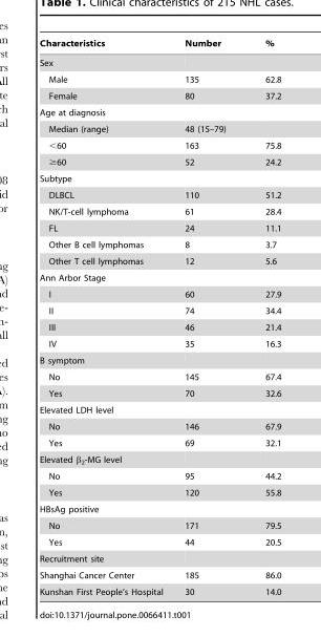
<table><thead><tr><td>Characteristics</td><td>Number</td><td>%</td></tr></thead><tbody><tr><td colspan="3">Sex</td></tr><tr><td>Male</td><td>135</td><td>62.8</td></tr><tr><td>Female</td><td>80</td><td>37.2</td></tr><tr><td colspan="3">Age at diagnosis</td></tr><tr><td>Median (range)</td><td>48 (15–79)</td><td></td></tr><tr><td>&lt;60</td><td>163</td><td>75.8</td></tr><tr><td>≥60</td><td>52</td><td>24.2</td></tr><tr><td colspan="3">Subtype</td></tr><tr><td>DLBCL</td><td>110</td><td>51.2</td></tr><tr><td>NK/T-cell lymphoma</td><td>61</td><td>28.4</td></tr><tr><td>FL</td><td>24</td><td>11.1</td></tr><tr><td>Other B cell lymphomas</td><td>8</td><td>3.7</td></tr><tr><td>Other T cell lymphomas</td><td>12</td><td>5.6</td></tr><tr><td colspan="3">Ann Arbor Stage</td></tr><tr><td>I</td><td>60</td><td>27.9</td></tr><tr><td>II</td><td>74</td><td>34.4</td></tr><tr><td>III</td><td>46</td><td>21.4</td></tr><tr><td>IV</td><td>35</td><td>16.3</td></tr><tr><td colspan="3">B symptom</td></tr><tr><td>No</td><td>145</td><td>67.4</td></tr><tr><td>Yes</td><td>70</td><td>32.6</td></tr><tr><td colspan="3">Elevated LDH level</td></tr><tr><td>No</td><td>146</td><td>67.9</td></tr><tr><td>Yes</td><td>69</td><td>32.1</td></tr><tr><td colspan="3">Elevated β<sub>2</sub>-MG level</td></tr><tr><td>No</td><td>95</td><td>44.2</td></tr><tr><td>Yes</td><td>120</td><td>55.8</td></tr><tr><td colspan="3">HBsAg positive</td></tr><tr><td>No</td><td>171</td><td>79.5</td></tr><tr><td>Yes</td><td>44</td><td>20.5</td></tr><tr><td colspan="3">Recruitment site</td></tr><tr><td>Shanghai Cancer Center</td><td>185</td><td>86.0</td></tr><tr><td>Kunshan First People’s Hospital</td><td>30</td><td>14.0</td></tr></tbody></table>